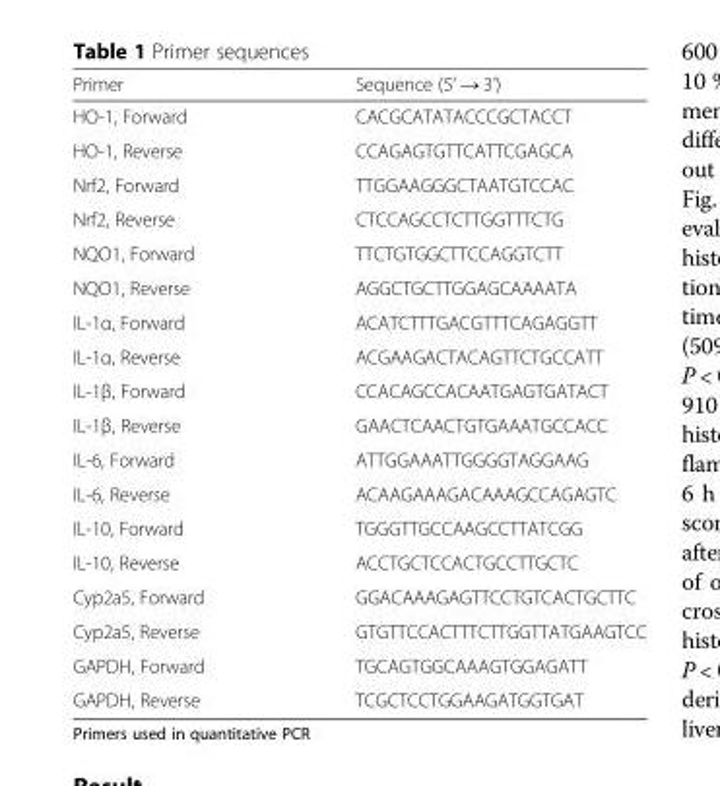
<table><thead><tr><td>Primer</td><td>Sequence (5‘ → 3’)</td></tr></thead><tbody><tr><td>HO-1, Forward</td><td>CACGCATATACCCGCTACCT</td></tr><tr><td>HO-1, Reverse</td><td>CCAGAGTGTTCATTCGAGCA</td></tr><tr><td>Nrf2, Forward</td><td>TTGGAAGGGCTAATGTCCAC</td></tr><tr><td>Nrf2, Reverse</td><td>CTCCAGCCTCTTGGTTTCTG</td></tr><tr><td>NQO1, Forward</td><td>TTCTGTGGCTTCCAGGTCTT</td></tr><tr><td>NQO1, Reverse</td><td>AGGCTGCTTGGAGCAAAATA</td></tr><tr><td>IL-1α, Forward</td><td>ACATCTTTGACGTTTCAGAGGTT</td></tr><tr><td>IL-1α, Reverse</td><td>ACGAAGACTACAGTTCTGCCATT</td></tr><tr><td>IL-1β, Forward</td><td>CCACAGCCACAATGAGTGATACT</td></tr><tr><td>IL-1β, Reverse</td><td>GAACTCAACTGTGAAATGCCACC</td></tr><tr><td>IL-6, Forward</td><td>ATTGGAAATTGGGGTAGGAAG</td></tr><tr><td>IL-6, Reverse</td><td>ACAAGAAAGACAAAGCCAGAGTC</td></tr><tr><td>IL-10, Forward</td><td>TGGGTTGCCAAGCCTTATCGG</td></tr><tr><td>IL-10, Reverse</td><td>ACCTGCTCCACTGCCTTGCTC</td></tr><tr><td>Cyp2a5, Forward</td><td>GGACAAAGAGTTCCTGTCACTGCTTC</td></tr><tr><td>Cyp2a5, Reverse</td><td>GTGTTCCACTTTCTTGGTTATGAAGTCC</td></tr><tr><td>GAPDH, Forward</td><td>TGCAGTGGCAAAGTGGAGATT</td></tr><tr><td>GAPDH, Reverse</td><td>TCGCTCCTGGAAGATGGTGAT</td></tr></tbody></table>